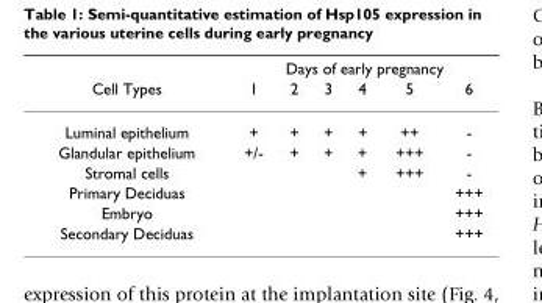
<table><thead><tr><td rowspan="2">Cell Types</td><td colspan="6">Days of early pregnancy</td></tr><tr><td>1</td><td>2</td><td>3</td><td>4</td><td>5</td><td>6</td></tr></thead><tbody><tr><td>Luminal epithelium</td><td>+</td><td>+</td><td>+</td><td>+</td><td>++</td><td>-</td></tr><tr><td>Glandular epithelium</td><td>+/-</td><td>+</td><td>+</td><td>+</td><td>+++</td><td>-</td></tr><tr><td>Stromal cells</td><td></td><td></td><td></td><td>+</td><td>+++</td><td>-</td></tr><tr><td>Primary Deciduas</td><td></td><td></td><td></td><td></td><td></td><td>+++</td></tr><tr><td>Embryo</td><td></td><td></td><td></td><td></td><td></td><td>+++</td></tr><tr><td>Secondary Deciduas</td><td></td><td></td><td></td><td></td><td></td><td>+++</td></tr></tbody></table>